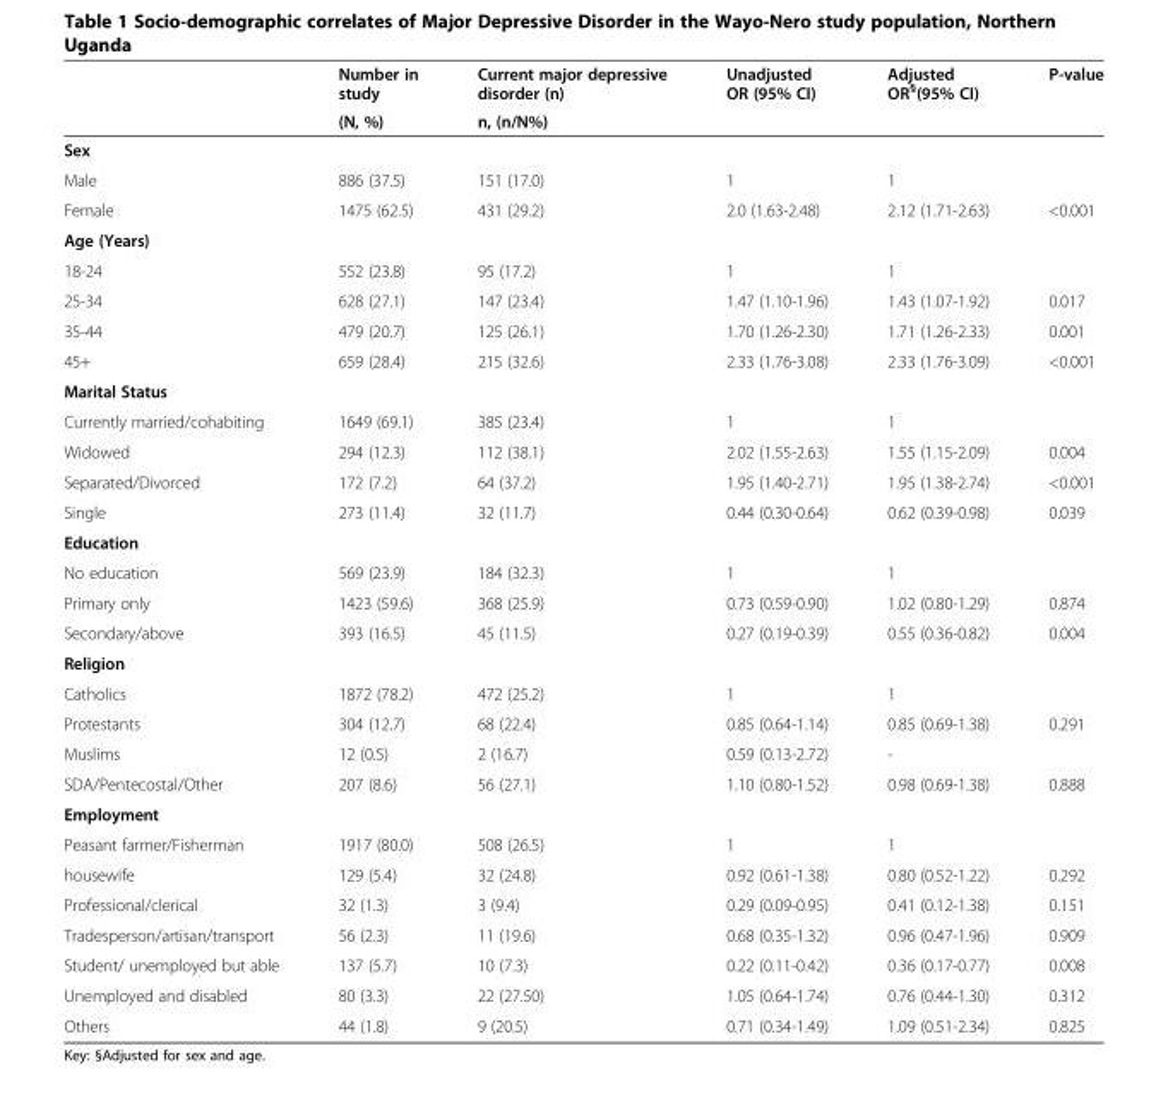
<table><thead><tr><td rowspan="2"></td><td rowspan="2">Number in study (N, %)</td><td rowspan="2">Current major depressive disorder (n) n, (n/N%)</td><td rowspan="2">Unadjusted OR (95% CI)</td><td rowspan="2">Adjusted OR<sup>§</sup>(95% CI)</td><td rowspan="2">P-value</td></tr><tr></tr></thead><tbody><tr><td colspan="6">Sex</td></tr><tr><td>Male</td><td>886 (37.5)</td><td>151 (17.0)</td><td>1</td><td>1</td><td></td></tr><tr><td>Female</td><td>1475 (62.5)</td><td>431 (29.2)</td><td>2.0 (1.63-2.48)</td><td>2.12 (1.71-2.63)</td><td>&lt;0.001</td></tr><tr><td colspan="6">Age (Years)</td></tr><tr><td>18-24</td><td>552 (23.8)</td><td>95 (17.2)</td><td>1</td><td>1</td><td></td></tr><tr><td>25-34</td><td>628 (27.1)</td><td>147 (23.4)</td><td>1.47 (1.10-1.96)</td><td>1.43 (1.07-1.92)</td><td>0.017</td></tr><tr><td>35-44</td><td>479 (20.7)</td><td>125 (26.1)</td><td>1.70 (1.26-2.30)</td><td>1.71 (1.26-2.33)</td><td>0.001</td></tr><tr><td>45+</td><td>659 (28.4)</td><td>215 (32.6)</td><td>2.33 (1.76-3.08)</td><td>2.33 (1.76-3.09)</td><td>&lt;0.001</td></tr><tr><td colspan="6">Marital Status</td></tr><tr><td>Currently married/cohabiting</td><td>1649 (69.1)</td><td>385 (23.4)</td><td>1</td><td>1</td><td></td></tr><tr><td>Widowed</td><td>294 (12.3)</td><td>112 (38.1)</td><td>2.02 (1.55-2.63)</td><td>1.55 (1.15-2.09)</td><td>0.004</td></tr><tr><td>Separated/Divorced</td><td>172 (7.2)</td><td>64 (37.2)</td><td>1.95 (1.40-2.71)</td><td>1.95 (1.38-2.74)</td><td>&lt;0.001</td></tr><tr><td>Single</td><td>273 (11.4)</td><td>32 (11.7)</td><td>0.44 (0.30-0.64)</td><td>0.62 (0.39-0.98)</td><td>0.039</td></tr><tr><td colspan="6">Education</td></tr><tr><td>No education</td><td>569 (23.9)</td><td>184 (32.3)</td><td>1</td><td>1</td><td></td></tr><tr><td>Primary only</td><td>1423 (59.6)</td><td>368 (25.9)</td><td>0.73 (0.59-0.90)</td><td>1.02 (0.80-1.29)</td><td>0.874</td></tr><tr><td>Secondary/above</td><td>393 (16.5)</td><td>45 (11.5)</td><td>0.27 (0.19-0.39)</td><td>0.55 (0.36-0.82)</td><td>0.004</td></tr><tr><td colspan="6">Religion</td></tr><tr><td>Catholics</td><td>1872 (78.2)</td><td>472 (25.2)</td><td>1</td><td>1</td><td></td></tr><tr><td>Protestants</td><td>304 (12.7)</td><td>68 (22.4)</td><td>0.85 (0.64-1.14)</td><td>0.85 (0.69-1.38)</td><td>0.291</td></tr><tr><td>Muslims</td><td>12 (0.5)</td><td>2 (16.7)</td><td>0.59 (0.13-2.72)</td><td>-</td><td></td></tr><tr><td>SDA/Pentecostal/Other</td><td>207 (8.6)</td><td>56 (27.1)</td><td>1.10 (0.80-1.52)</td><td>0.98 (0.69-1.38)</td><td>0.888</td></tr><tr><td colspan="6">Employment</td></tr><tr><td>Peasant farmer/Fisherman</td><td>1917 (80.0)</td><td>508 (26.5)</td><td>1</td><td>1</td><td></td></tr><tr><td>housewife</td><td>129 (5.4)</td><td>32 (24.8)</td><td>0.92 (0.61-1.38)</td><td>0.80 (0.52-1.22)</td><td>0.292</td></tr><tr><td>Professional/clerical</td><td>32 (1.3)</td><td>3 (9.4)</td><td>0.29 (0.09-0.95)</td><td>0.41 (0.12-1.38)</td><td>0.151</td></tr><tr><td>Tradesperson/artisan/transport</td><td>56 (2.3)</td><td>11 (19.6)</td><td>0.68 (0.35-1.32)</td><td>0.96 (0.47-1.96)</td><td>0.909</td></tr><tr><td>Student/ unemployed but able</td><td>137 (5.7)</td><td>10 (7.3)</td><td>0.22 (0.11-0.42)</td><td>0.36 (0.17-0.77)</td><td>0.008</td></tr><tr><td>Unemployed and disabled</td><td>80 (3.3)</td><td>22 (27.50)</td><td>1.05 (0.64-1.74)</td><td>0.76 (0.44-1.30)</td><td>0.312</td></tr><tr><td>Others</td><td>44 (1.8)</td><td>9 (20.5)</td><td>0.71 (0.34-1.49)</td><td>1.09 (0.51-2.34)</td><td>0.825</td></tr></tbody></table>